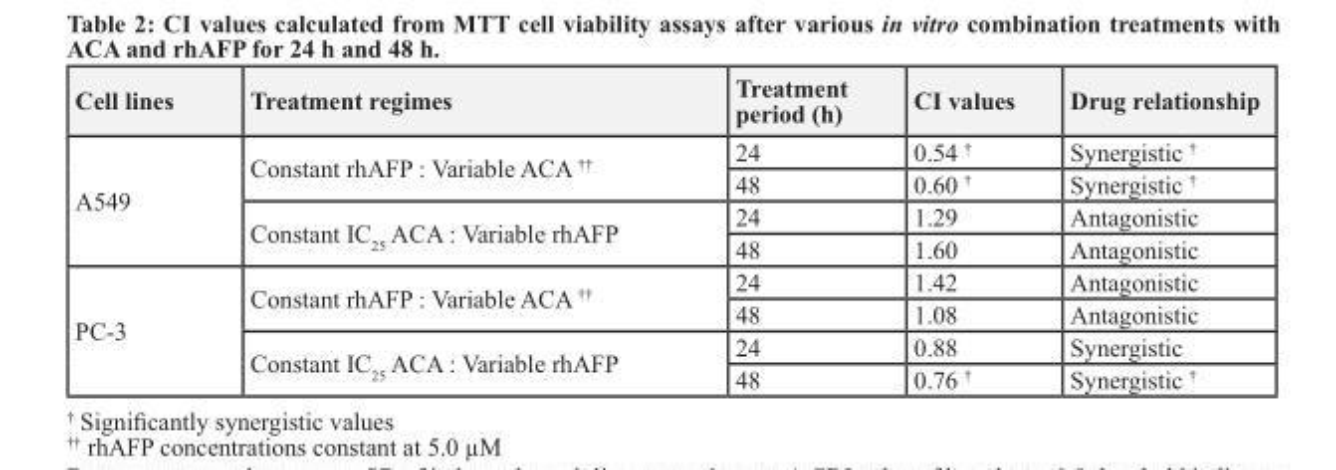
<table><thead><tr><td>Cell lines</td><td>Treatment regimes</td><td>Treatment period (h)</td><td>CI values</td><td>Drug relationship</td></tr></thead><tbody><tr><td rowspan="4">A549</td><td rowspan="2">Constant rhAFP : Variable ACA <sup>††</sup></td><td>24</td><td>0.54 <sup>†</sup></td><td>Synergistic <sup>†</sup></td></tr><tr><td>48</td><td>0.60 <sup>†</sup></td><td>Synergistic <sup>†</sup></td></tr><tr><td rowspan="2">Constant IC25 ACA : Variable rhAFP</td><td>24</td><td>1.29</td><td>Antagonistic</td></tr><tr><td>48</td><td>1.60</td><td>Antagonistic</td></tr><tr><td rowspan="4">PC-3</td><td rowspan="2">Constant rhAFP : Variable ACA <sup>††</sup></td><td>24</td><td>1.42</td><td>Antagonistic</td></tr><tr><td>48</td><td>1.08</td><td>Antagonistic</td></tr><tr><td rowspan="2">Constant IC25 ACA : Variable rhAFP</td><td>24</td><td>0.88</td><td>Synergistic</td></tr><tr><td>48</td><td>0.76 <sup>†</sup></td><td>Synergistic <sup>†</sup></td></tr></tbody></table>